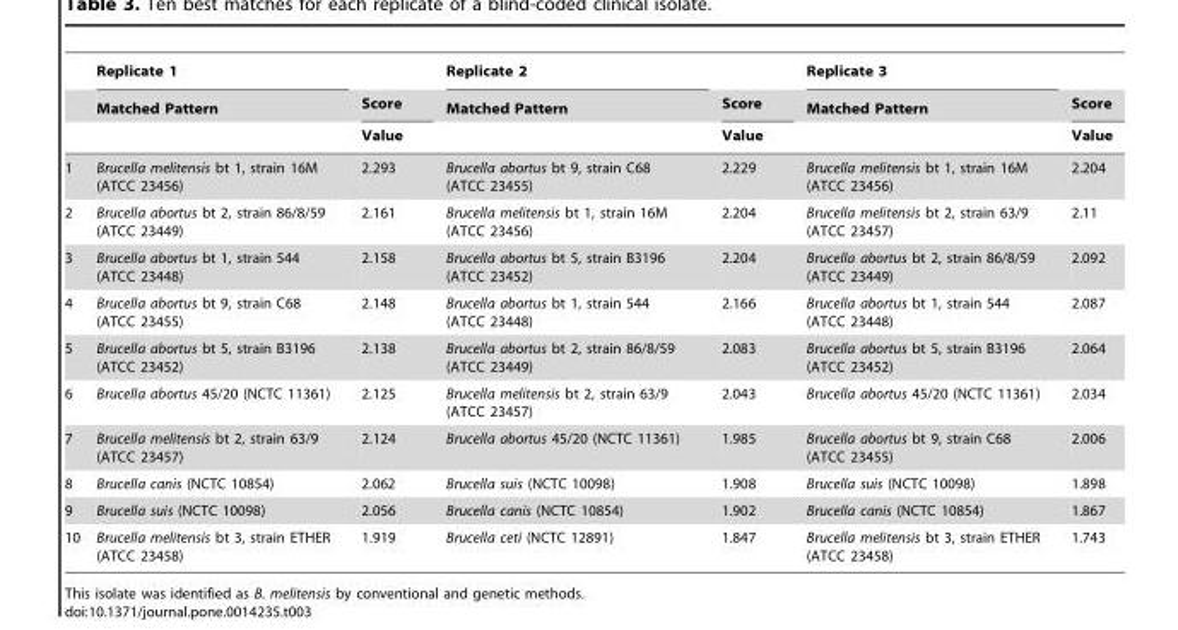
<table><thead><tr><td rowspan="3"></td><td rowspan="3">Replicate 1 Matched Pattern</td><td rowspan="3">Score Value</td><td rowspan="3">Replicate 2 Matched Pattern</td><td rowspan="3">Score Value</td><td rowspan="3">Replicate 3 Matched Pattern</td><td rowspan="3">Score Value</td></tr><tr></tr><tr></tr></thead><tbody><tr><td>1</td><td>Brucella melitensis bt 1, strain 16M (ATCC 23456)</td><td>2.293</td><td>Brucella abortus bt 9, strain C68 (ATCC 23455)</td><td>2.229</td><td>Brucella melitensis bt 1, strain 16M (ATCC 23456)</td><td>2.204</td></tr><tr><td>2</td><td>Brucella abortus bt 2, strain 86/8/59 (ATCC 23449)</td><td>2.161</td><td>Brucella melitensis bt 1, strain 16M (ATCC 23456)</td><td>2.204</td><td>Brucella melitensis bt 2, strain 63/9 (ATCC 23457)</td><td>2.11</td></tr><tr><td>3</td><td>Brucella abortus bt 1, strain 544 (ATCC 23448)</td><td>2.158</td><td>Brucella abortus bt 5, strain B3196 (ATCC 23452)</td><td>2.204</td><td>Brucella abortus bt 2, strain 86/8/59 (ATCC 23449)</td><td>2.092</td></tr><tr><td>4</td><td>Brucella abortus bt 9, strain C68 (ATCC 23455)</td><td>2.148</td><td>Brucella abortus bt 1, strain 544 (ATCC 23448)</td><td>2.166</td><td>Brucella abortus bt 1, strain 544 (ATCC 23448)</td><td>2.087</td></tr><tr><td>5</td><td>Brucella abortus bt 5, strain B3196 (ATCC 23452)</td><td>2.138</td><td>Brucella abortus bt 2, strain 86/8/59 (ATCC 23449)</td><td>2.083</td><td>Brucella abortus bt 5, strain B3196 (ATCC 23452)</td><td>2.064</td></tr><tr><td>6</td><td>Brucella abortus 45/20 (NCTC 11361)</td><td>2.125</td><td>Brucella melitensis bt 2, strain 63/9 (ATCC 23457)</td><td>2.043</td><td>Brucella abortus 45/20 (NCTC 11361)</td><td>2.034</td></tr><tr><td>7</td><td>Brucella melitensis bt 2, strain 63/9 (ATCC 23457)</td><td>2.124</td><td>Brucella abortus 45/20 (NCTC 11361)</td><td>1.985</td><td>Brucella abortus bt 9, strain C68 (ATCC 23455)</td><td>2.006</td></tr><tr><td>8</td><td>Brucella canis (NCTC 10854)</td><td>2.062</td><td>Brucella suis (NCTC 10098)</td><td>1.908</td><td>Brucella suis (NCTC 10098)</td><td>1.898</td></tr><tr><td>9</td><td>Brucella suis (NCTC 10098)</td><td>2.056</td><td>Brucella canis (NCTC 10854)</td><td>1.902</td><td>Brucella canis (NCTC 10854)</td><td>1.867</td></tr><tr><td>10</td><td>Brucella melitensis bt 3, strain ETHER (ATCC 23458)</td><td>1.919</td><td>Brucella ceti (NCTC 12891)</td><td>1.847</td><td>Brucella melitensis bt 3, strain ETHER (ATCC 23458)</td><td>1.743</td></tr></tbody></table>